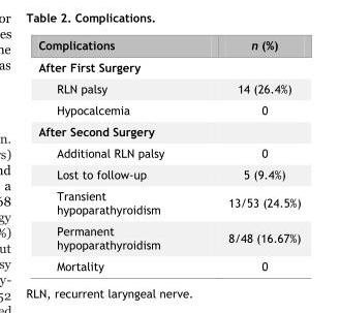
<table><thead><tr><td>Complications</td><td>n (%)</td></tr></thead><tbody><tr><td colspan="2">After First Surgery</td></tr><tr><td>RLN palsy</td><td>14 (26.4%)</td></tr><tr><td>Hypocalcemia</td><td>0</td></tr><tr><td colspan="2">After Second Surgery</td></tr><tr><td>Additional RLN palsy</td><td>0</td></tr><tr><td>Lost to follow-up</td><td>5 (9.4%)</td></tr><tr><td>Transient hypoparathyroidism</td><td>13/53 (24.5%)</td></tr><tr><td>Permanent hypoparathyroidism</td><td>8/48 (16.67%)</td></tr><tr><td>Mortality</td><td>0</td></tr></tbody></table>